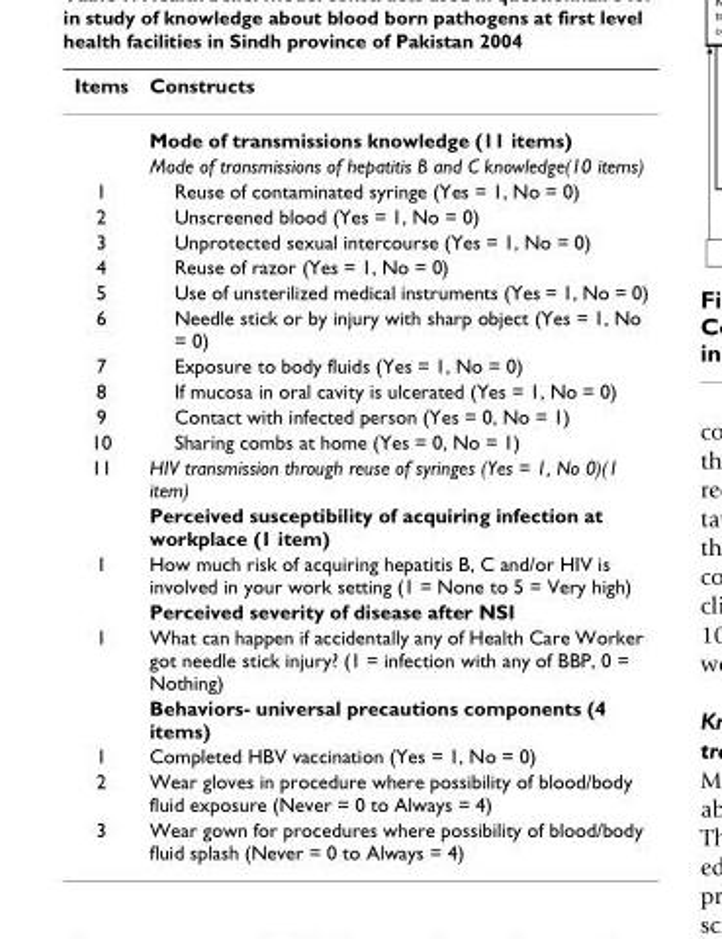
<table><thead><tr><td>Items</td><td>Constructs</td></tr></thead><tbody><tr><td></td><td>Mode of transmissions knowledge (11 items)</td></tr><tr><td></td><td>Mode of transmissions of hepatitis B and C knowledge(10 items)</td></tr><tr><td>1</td><td>Reuse of contaminated syringe (Yes = 1, No = 0)</td></tr><tr><td>2</td><td>Unscreened blood (Yes = 1, No = 0)</td></tr><tr><td>3</td><td>Unprotected sexual intercourse (Yes = 1, No = 0)</td></tr><tr><td>4</td><td>Reuse of razor (Yes = 1, No = 0)</td></tr><tr><td>5</td><td>Use of unsterilized medical instruments (Yes = 1, No = 0)</td></tr><tr><td>6</td><td>Needle stick or by injury with sharp object (Yes = 1, No = 0)</td></tr><tr><td>7</td><td>Exposure to body fluids (Yes = 1, No = 0)</td></tr><tr><td>8</td><td>If mucosa in oral cavity is ulcerated (Yes = 1, No = 0)</td></tr><tr><td>9</td><td>Contact with infected person (Yes = 0, No = 1)</td></tr><tr><td>10</td><td>Sharing combs at home (Yes = 0, No = 1)</td></tr><tr><td rowspan="2">11</td><td>HIV transmission through reuse of syringes (Yes = 1, No 0)(1 item)</td></tr><tr><td>Perceived susceptibility of acquiring infection at workplace (1 item)</td></tr><tr><td rowspan="2">1</td><td>How much risk of acquiring hepatitis B, C and/or HIV is involved in your work setting (1 = None to 5 = Very high)</td></tr><tr><td>Perceived severity of disease after NSI</td></tr><tr><td rowspan="2">1</td><td>What can happen if accidentally any of Health Care Worker got needle stick injury? (1 = infection with any of BBP, 0 = Nothing)</td></tr><tr><td>Behaviors- universal precautions components (4 items)</td></tr><tr><td>1</td><td>Completed HBV vaccination (Yes = 1, No = 0)</td></tr><tr><td>2</td><td>Wear gloves in procedure where possibility of blood/body fluid exposure (Never = 0 to Always = 4)</td></tr><tr><td>3</td><td>Wear gown for procedures where possibility of blood/body fluid splash (Never = 0 to Always = 4)</td></tr></tbody></table>